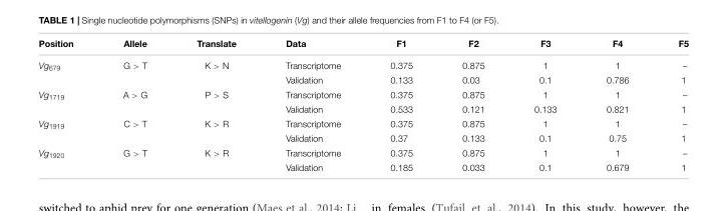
<table><thead><tr><td>Position</td><td>Allele</td><td>Translate</td><td>Data</td><td>F1</td><td>F2</td><td>F3</td><td>F4</td><td>F5</td></tr></thead><tbody><tr><td rowspan="2">Vg<sub>679</sub></td><td>G &gt; T</td><td>K &gt; N</td><td>Transcriptome</td><td>0.375</td><td>0.875</td><td>1</td><td>1</td><td>–</td></tr><tr><td></td><td></td><td>Validation</td><td>0.133</td><td>0.03</td><td>0.1</td><td>0.786</td><td>1</td></tr><tr><td rowspan="2">Vg<sub>1719</sub></td><td>A &gt; G</td><td>P &gt; S</td><td>Transcriptome</td><td>0.375</td><td>0.875</td><td>1</td><td>1</td><td>–</td></tr><tr><td></td><td></td><td>Validation</td><td>0.533</td><td>0.121</td><td>0.133</td><td>0.821</td><td>1</td></tr><tr><td rowspan="2">Vg<sub>1919</sub></td><td>C &gt; T</td><td>K &gt; R</td><td>Transcriptome</td><td>0.375</td><td>0.875</td><td>1</td><td>1</td><td>–</td></tr><tr><td></td><td></td><td>Validation</td><td>0.37</td><td>0.133</td><td>0.1</td><td>0.75</td><td>1</td></tr><tr><td rowspan="2">Vg<sub>1920</sub></td><td>G &gt; T</td><td>K &gt; R</td><td>Transcriptome</td><td>0.375</td><td>0.875</td><td>1</td><td>1</td><td>–</td></tr><tr><td></td><td></td><td>Validation</td><td>0.185</td><td>0.033</td><td>0.1</td><td>0.679</td><td>1</td></tr></tbody></table>